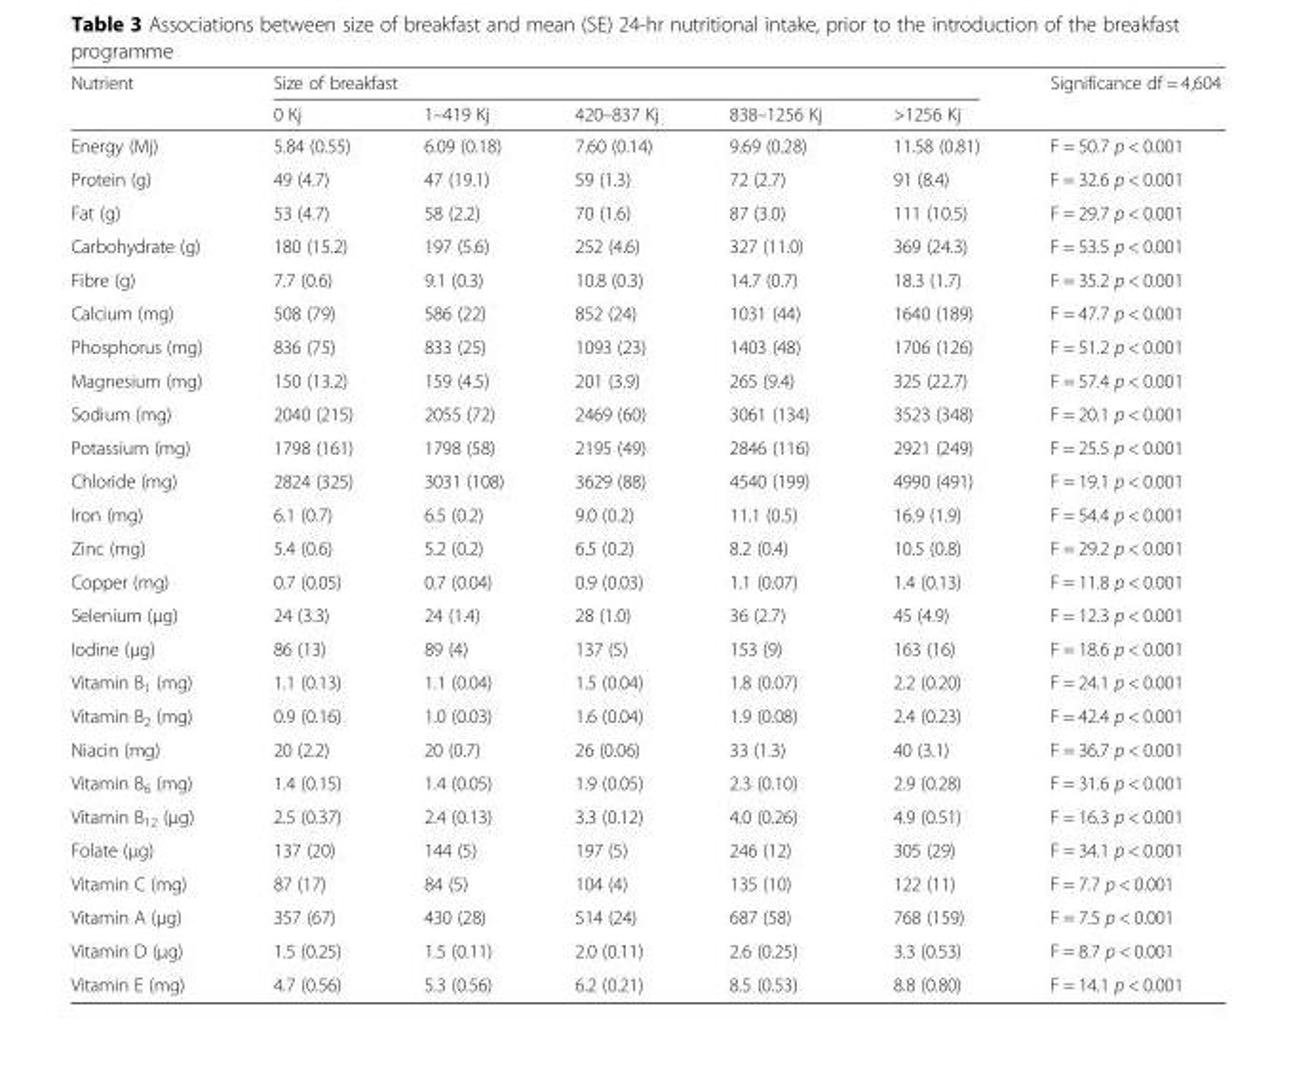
<table><thead><tr><td rowspan="2">Nutrient</td><td colspan="5">Size of breakfast</td><td rowspan="2">Significance df = 4,604</td></tr><tr><td>0 Kj</td><td>1–419 Kj</td><td>420–837 Kj</td><td>838–1256 Kj</td><td>&gt;1256 Kj</td></tr></thead><tbody><tr><td>Energy (Mj)</td><td>5.84 (0.55)</td><td>6.09 (0.18)</td><td>7.60 (0.14)</td><td>9.69 (0.28)</td><td>11.58 (0.81)</td><td>F = 50.7 p &lt; 0.001</td></tr><tr><td>Protein (g)</td><td>49 (4.7)</td><td>47 (19.1)</td><td>59 (1.3)</td><td>72 (2.7)</td><td>91 (8.4)</td><td>F = 32.6 p &lt; 0.001</td></tr><tr><td>Fat (g)</td><td>53 (4.7)</td><td>58 (2.2)</td><td>70 (1.6)</td><td>87 (3.0)</td><td>111 (10.5)</td><td>F = 29.7 p &lt; 0.001</td></tr><tr><td>Carbohydrate (g)</td><td>180 (15.2)</td><td>197 (5.6)</td><td>252 (4.6)</td><td>327 (11.0)</td><td>369 (24.3)</td><td>F = 53.5 p &lt; 0.001</td></tr><tr><td>Fibre (g)</td><td>7.7 (0.6)</td><td>9.1 (0.3)</td><td>10.8 (0.3)</td><td>14.7 (0.7)</td><td>18.3 (1.7)</td><td>F = 35.2 p &lt; 0.001</td></tr><tr><td>Calcium (mg)</td><td>508 (79)</td><td>586 (22)</td><td>852 (24)</td><td>1031 (44)</td><td>1640 (189)</td><td>F = 47.7 p &lt; 0.001</td></tr><tr><td>Phosphorus (mg)</td><td>836 (75)</td><td>833 (25)</td><td>1093 (23)</td><td>1403 (48)</td><td>1706 (126)</td><td>F = 51.2 p &lt; 0.001</td></tr><tr><td>Magnesium (mg)</td><td>150 (13.2)</td><td>159 (4.5)</td><td>201 (3.9)</td><td>265 (9.4)</td><td>325 (22.7)</td><td>F = 57.4 p &lt; 0.001</td></tr><tr><td>Sodium (mg)</td><td>2040 (215)</td><td>2055 (72)</td><td>2469 (60)</td><td>3061 (134)</td><td>3523 (348)</td><td>F = 20.1 p &lt; 0.001</td></tr><tr><td>Potassium (mg)</td><td>1798 (161)</td><td>1798 (58)</td><td>2195 (49)</td><td>2846 (116)</td><td>2921 (249)</td><td>F = 25.5 p &lt; 0.001</td></tr><tr><td>Chloride (mg)</td><td>2824 (325)</td><td>3031 (108)</td><td>3629 (88)</td><td>4540 (199)</td><td>4990 (491)</td><td>F = 19.1 p &lt; 0.001</td></tr><tr><td>Iron (mg)</td><td>6.1 (0.7)</td><td>6.5 (0.2)</td><td>9.0 (0.2)</td><td>11.1 (0.5)</td><td>16.9 (1.9)</td><td>F = 54.4 p &lt; 0.001</td></tr><tr><td>Zinc (mg)</td><td>5.4 (0.6)</td><td>5.2 (0.2)</td><td>6.5 (0.2)</td><td>8.2 (0.4)</td><td>10.5 (0.8)</td><td>F = 29.2 p &lt; 0.001</td></tr><tr><td>Copper (mg)</td><td>0.7 (0.05)</td><td>0.7 (0.04)</td><td>0.9 (0.03)</td><td>1.1 (0.07)</td><td>1.4 (0.13)</td><td>F = 11.8 p &lt; 0.001</td></tr><tr><td>Selenium (μg)</td><td>24 (3.3)</td><td>24 (1.4)</td><td>28 (1.0)</td><td>36 (2.7)</td><td>45 (4.9)</td><td>F = 12.3 p &lt; 0.001</td></tr><tr><td>Iodine (μg)</td><td>86 (13)</td><td>89 (4)</td><td>137 (5)</td><td>153 (9)</td><td>163 (16)</td><td>F = 18.6 p &lt; 0.001</td></tr><tr><td>Vitamin B<sub>1</sub> (mg)</td><td>1.1 (0.13)</td><td>1.1 (0.04)</td><td>1.5 (0.04)</td><td>1.8 (0.07)</td><td>2.2 (0.20)</td><td>F = 24.1 p &lt; 0.001</td></tr><tr><td>Vitamin B<sub>2</sub> (mg)</td><td>0.9 (0.16)</td><td>1.0 (0.03)</td><td>1.6 (0.04)</td><td>1.9 (0.08)</td><td>2.4 (0.23)</td><td>F = 42.4 p &lt; 0.001</td></tr><tr><td>Niacin (mg)</td><td>20 (2.2)</td><td>20 (0.7)</td><td>26 (0.06)</td><td>33 (1.3)</td><td>40 (3.1)</td><td>F = 36.7 p &lt; 0.001</td></tr><tr><td>Vitamin B<sub>6</sub> (mg)</td><td>1.4 (0.15)</td><td>1.4 (0.05)</td><td>1.9 (0.05)</td><td>2.3 (0.10)</td><td>2.9 (0.28)</td><td>F = 31.6 p &lt; 0.001</td></tr><tr><td>Vitamin B<sub>12</sub> (μg)</td><td>2.5 (0.37)</td><td>2.4 (0.13)</td><td>3.3 (0.12)</td><td>4.0 (0.26)</td><td>4.9 (0.51)</td><td>F = 16.3 p &lt; 0.001</td></tr><tr><td>Folate (μg)</td><td>137 (20)</td><td>144 (5)</td><td>197 (5)</td><td>246 (12)</td><td>305 (29)</td><td>F = 34.1 p &lt; 0.001</td></tr><tr><td>Vitamin C (mg)</td><td>87 (17)</td><td>84 (5)</td><td>104 (4)</td><td>135 (10)</td><td>122 (11)</td><td>F = 7.7 p &lt; 0.001</td></tr><tr><td>Vitamin A (μg)</td><td>357 (67)</td><td>430 (28)</td><td>514 (24)</td><td>687 (58)</td><td>768 (159)</td><td>F = 7.5 p &lt; 0.001</td></tr><tr><td>Vitamin D (μg)</td><td>1.5 (0.25)</td><td>1.5 (0.11)</td><td>2.0 (0.11)</td><td>2.6 (0.25)</td><td>3.3 (0.53)</td><td>F = 8.7 p &lt; 0.001</td></tr><tr><td>Vitamin E (mg)</td><td>4.7 (0.56)</td><td>5.3 (0.56)</td><td>6.2 (0.21)</td><td>8.5 (0.53)</td><td>8.8 (0.80)</td><td>F = 14.1 p &lt; 0.001</td></tr></tbody></table>